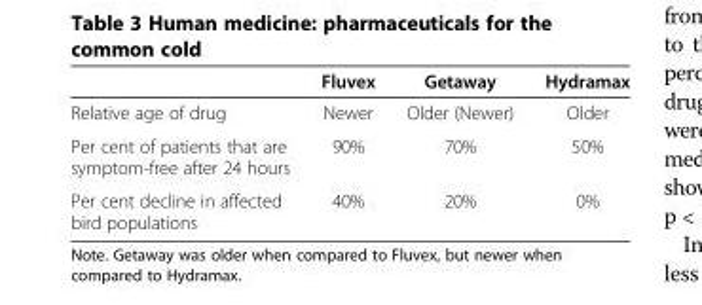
<table><thead><tr><td></td><td>Fluvex</td><td>Getaway</td><td>Hydramax</td></tr></thead><tbody><tr><td>Relative age of drug</td><td>Newer</td><td>Older (Newer)</td><td>Older</td></tr><tr><td>Per cent of patients that are symptom-free after 24 hours</td><td>90%</td><td>70%</td><td>50%</td></tr><tr><td>Per cent decline in affected bird populations</td><td>40%</td><td>20%</td><td>0%</td></tr></tbody></table>